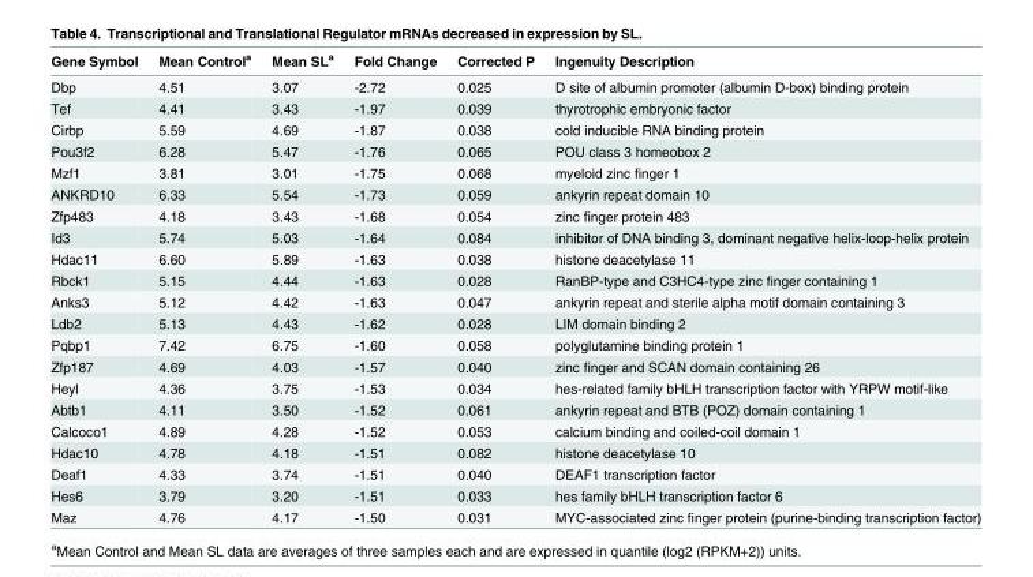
<table><thead><tr><td>Gene Symbol</td><td>Mean Control<sup>a</sup></td><td>Mean SL<sup>a</sup></td><td>Fold Change</td><td>Corrected P</td><td>Ingenuity Description</td></tr></thead><tbody><tr><td>Dbp</td><td>4.51</td><td>3.07</td><td>-2.72</td><td>0.025</td><td>D site of albumin promoter (albumin D-box) binding protein</td></tr><tr><td>Tef</td><td>4.41</td><td>3.43</td><td>-1.97</td><td>0.039</td><td>thyrotrophic embryonic factor</td></tr><tr><td>Cirbp</td><td>5.59</td><td>4.69</td><td>-1.87</td><td>0.038</td><td>cold inducible RNA binding protein</td></tr><tr><td>Pou3f2</td><td>6.28</td><td>5.47</td><td>-1.76</td><td>0.065</td><td>POU class 3 homeobox 2</td></tr><tr><td>Mzf1</td><td>3.81</td><td>3.01</td><td>-1.75</td><td>0.068</td><td>myeloid zinc finger 1</td></tr><tr><td>ANKRD10</td><td>6.33</td><td>5.54</td><td>-1.73</td><td>0.059</td><td>ankyrin repeat domain 10</td></tr><tr><td>Zfp483</td><td>4.18</td><td>3.43</td><td>-1.68</td><td>0.054</td><td>zinc finger protein 483</td></tr><tr><td>Id3</td><td>5.74</td><td>5.03</td><td>-1.64</td><td>0.084</td><td>inhibitor of DNA binding 3, dominant negative helix-loop-helix protein</td></tr><tr><td>Hdac11</td><td>6.60</td><td>5.89</td><td>-1.63</td><td>0.038</td><td>histone deacetylase 11</td></tr><tr><td>Rbck1</td><td>5.15</td><td>4.44</td><td>-1.63</td><td>0.028</td><td>RanBP-type and C3HC4-type zinc finger containing 1</td></tr><tr><td>Anks3</td><td>5.12</td><td>4.42</td><td>-1.63</td><td>0.047</td><td>ankyrin repeat and sterile alpha motif domain containing 3</td></tr><tr><td>Ldb2</td><td>5.13</td><td>4.43</td><td>-1.62</td><td>0.028</td><td>LIM domain binding 2</td></tr><tr><td>Pqbp1</td><td>7.42</td><td>6.75</td><td>-1.60</td><td>0.058</td><td>polyglutamine binding protein 1</td></tr><tr><td>Zfp187</td><td>4.69</td><td>4.03</td><td>-1.57</td><td>0.040</td><td>zinc finger and SCAN domain containing 26</td></tr><tr><td>Heyl</td><td>4.36</td><td>3.75</td><td>-1.53</td><td>0.034</td><td>hes-related family bHLH transcription factor with YRPW motif-like</td></tr><tr><td>Abtb1</td><td>4.11</td><td>3.50</td><td>-1.52</td><td>0.061</td><td>ankyrin repeat and BTB (POZ) domain containing 1</td></tr><tr><td>Calcoco1</td><td>4.89</td><td>4.28</td><td>-1.52</td><td>0.053</td><td>calcium binding and coiled-coil domain 1</td></tr><tr><td>Hdac10</td><td>4.78</td><td>4.18</td><td>-1.51</td><td>0.082</td><td>histone deacetylase 10</td></tr><tr><td>Deaf1</td><td>4.33</td><td>3.74</td><td>-1.51</td><td>0.040</td><td>DEAF1 transcription factor</td></tr><tr><td>Hes6</td><td>3.79</td><td>3.20</td><td>-1.51</td><td>0.033</td><td>hes family bHLH transcription factor 6</td></tr><tr><td>Maz</td><td>4.76</td><td>4.17</td><td>-1.50</td><td>0.031</td><td>MYC-associated zinc finger protein (purine-binding transcription factor)</td></tr></tbody></table>